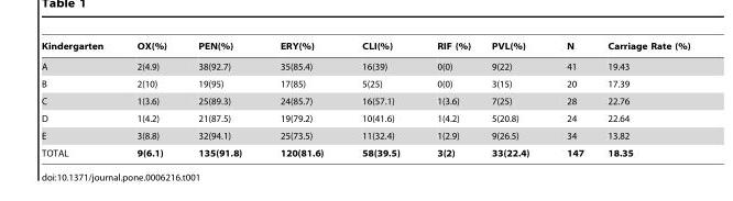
<table><thead><tr><td>Kindergarten</td><td>OX(%)</td><td>PEN(%)</td><td>ERY(%)</td><td>CLI(%)</td><td>RIF (%)</td><td>PVL(%)</td><td>N</td><td>Carriage Rate (%)</td></tr></thead><tbody><tr><td>A</td><td>2(4.9)</td><td>38(92.7)</td><td>35(85.4)</td><td>16(39)</td><td>0(0)</td><td>9(22)</td><td>41</td><td>19.43</td></tr><tr><td>B</td><td>2(10)</td><td>19(95)</td><td>17(85)</td><td>5(25)</td><td>0(0)</td><td>3(15)</td><td>20</td><td>17.39</td></tr><tr><td>C</td><td>1(3.6)</td><td>25(89.3)</td><td>24(85.7)</td><td>16(57.1)</td><td>1(3.6)</td><td>7(25)</td><td>28</td><td>22.76</td></tr><tr><td>D</td><td>1(4.2)</td><td>21(87.5)</td><td>19(79.2)</td><td>10(41.6)</td><td>1(4.2)</td><td>5(20.8)</td><td>24</td><td>22.64</td></tr><tr><td>E</td><td>3(8.8)</td><td>32(94.1)</td><td>25(73.5)</td><td>11(32.4)</td><td>1(2.9)</td><td>9(26.5)</td><td>34</td><td>13.82</td></tr><tr><td>TOTAL</td><td>9(6.1)</td><td>135(91.8)</td><td>120(81.6)</td><td>58(39.5)</td><td>3(2)</td><td>33(22.4)</td><td>147</td><td>18.35</td></tr></tbody></table>